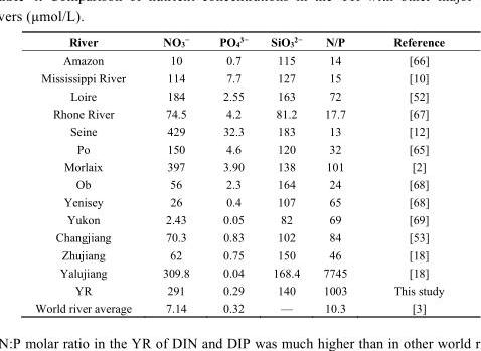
<table><thead><tr><td>River</td><td>NO<sub>3</sub><sup>−</sup></td><td>PO<sub>4</sub><sup>3−</sup></td><td>SiO<sub>3</sub><sup>2−</sup></td><td>N/P</td><td>Reference</td></tr></thead><tbody><tr><td>Amazon</td><td>10</td><td>0.7</td><td>115</td><td>14</td><td>[66]</td></tr><tr><td>Mississippi River</td><td>114</td><td>7.7</td><td>127</td><td>15</td><td>[10]</td></tr><tr><td>Loire</td><td>184</td><td>2.55</td><td>163</td><td>72</td><td>[52]</td></tr><tr><td>Rhone River</td><td>74.5</td><td>4.2</td><td>81.2</td><td>17.7</td><td>[67]</td></tr><tr><td>Seine</td><td>429</td><td>32.3</td><td>183</td><td>13</td><td>[12]</td></tr><tr><td>Po</td><td>150</td><td>4.6</td><td>120</td><td>32</td><td>[65]</td></tr><tr><td>Morlaix</td><td>397</td><td>3.90</td><td>138</td><td>101</td><td>[2]</td></tr><tr><td>Ob</td><td>56</td><td>2.3</td><td>164</td><td>24</td><td>[68]</td></tr><tr><td>Yenisey</td><td>26</td><td>0.4</td><td>107</td><td>65</td><td>[68]</td></tr><tr><td>Yukon</td><td>2.43</td><td>0.05</td><td>82</td><td>69</td><td>[69]</td></tr><tr><td>Changjiang</td><td>70.3</td><td>0.83</td><td>102</td><td>84</td><td>[53]</td></tr><tr><td>Zhujiang</td><td>62</td><td>0.75</td><td>150</td><td>46</td><td>[18]</td></tr><tr><td>Yalujiang</td><td>309.8</td><td>0.04</td><td>168.4</td><td>7745</td><td>[18]</td></tr><tr><td>YR</td><td>291</td><td>0.29</td><td>140</td><td>1003</td><td>This study</td></tr><tr><td>World river average</td><td>7.14</td><td>0.32</td><td>—</td><td>10.3</td><td>[3]</td></tr></tbody></table>